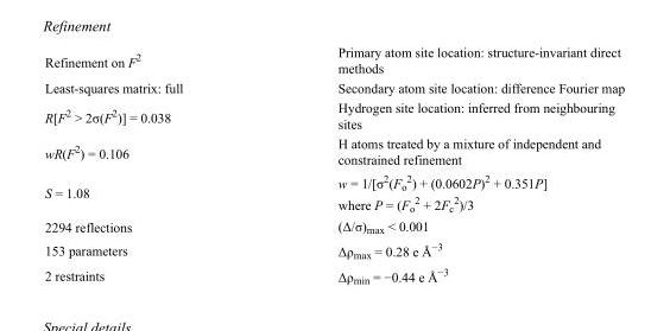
<table><tbody><tr><td>Refinement on F<sup>2</sup></td><td>Primary atom site location: structure-invariant direct methods</td></tr><tr><td>Least-squares matrix: full</td><td>Secondary atom site location: difference Fourier map</td></tr><tr><td>R[F<sup>2</sup> &gt; 2σ(F<sup>2</sup>)] = 0.038</td><td>Hydrogen site location: inferred from neighbouring sites</td></tr><tr><td>wR(F<sup>2</sup>) = 0.106</td><td>H atoms treated by a mixture of independent and constrained refinement</td></tr><tr><td>S = 1.08</td><td>w = 1/[σ<sup>2</sup>(F<sub>o</sub> <sup>2</sup>) + (0.0602P)<sup>2</sup> + 0.351P] where P = (F<sub>o</sub> <sup>2</sup> + 2F<sub>c</sub> <sup>2</sup>)/3</td></tr><tr><td>2294 reflections</td><td>(Δ/σ)<sub>max</sub> &lt; 0.001</td></tr><tr><td>153 parameters</td><td>Δρ<sub>max</sub> = 0.28 e Å<sup>−3</sup></td></tr><tr><td>2 restraints</td><td>Δρ<sub>min</sub> = −0.44 e Å<sup>−3</sup></td></tr></tbody></table>